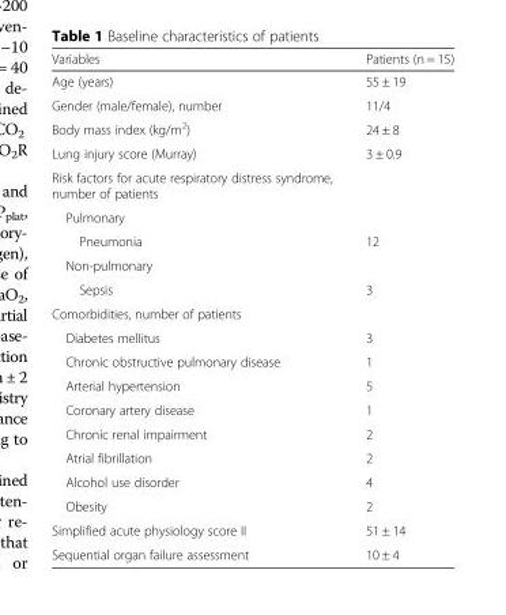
<table><thead><tr><td>Variables</td><td>Patients (n = 15)</td></tr></thead><tbody><tr><td>Age (years)</td><td>55 ± 19</td></tr><tr><td>Gender (male/female), number</td><td>11/4</td></tr><tr><td>Body mass index (kg/m<sup>2</sup>)</td><td>24 ± 8</td></tr><tr><td>Lung injury score (Murray)</td><td>3 ± 0.9</td></tr><tr><td colspan="2">Risk factors for acute respiratory distress syndrome, number of patients</td></tr><tr><td colspan="2">Pulmonary</td></tr><tr><td>Pneumonia</td><td>12</td></tr><tr><td colspan="2">Non-pulmonary</td></tr><tr><td>Sepsis</td><td>3</td></tr><tr><td colspan="2">Comorbidities, number of patients</td></tr><tr><td>Diabetes mellitus</td><td>3</td></tr><tr><td>Chronic obstructive pulmonary disease</td><td>1</td></tr><tr><td>Arterial hypertension</td><td>5</td></tr><tr><td>Coronary artery disease</td><td>1</td></tr><tr><td>Chronic renal impairment</td><td>2</td></tr><tr><td>Atrial fibrillation</td><td>2</td></tr><tr><td>Alcohol use disorder</td><td>4</td></tr><tr><td>Obesity</td><td>2</td></tr><tr><td>Simplified acute physiology score II</td><td>51 ± 14</td></tr><tr><td>Sequential organ failure assessment</td><td>10 ± 4</td></tr></tbody></table>